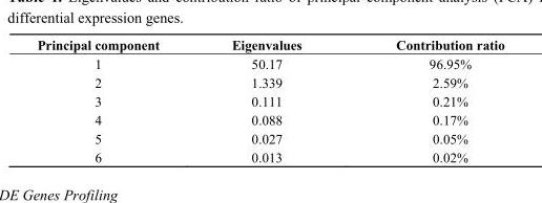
<table><thead><tr><td>Principal component</td><td>Eigenvalues</td><td>Contribution ratio</td></tr></thead><tbody><tr><td>1</td><td>50.17</td><td>96.95%</td></tr><tr><td>2</td><td>1.339</td><td>2.59%</td></tr><tr><td>3</td><td>0.111</td><td>0.21%</td></tr><tr><td>4</td><td>0.088</td><td>0.17%</td></tr><tr><td>5</td><td>0.027</td><td>0.05%</td></tr><tr><td>6</td><td>0.013</td><td>0.02%</td></tr></tbody></table>